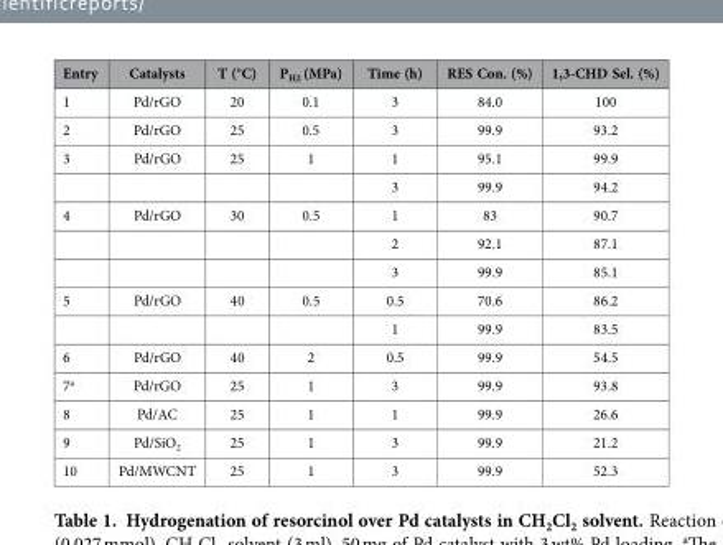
<table><thead><tr><td>Entry</td><td>Catalysts</td><td>T (°C)</td><td>P<sub>H2</sub> (MPa)</td><td>Time (h)</td><td>RES Con. (%)</td><td>1,3-CHD Sel. (%)</td></tr></thead><tbody><tr><td>1</td><td>Pd/rGO</td><td>20</td><td>0.1</td><td>3</td><td>84.0</td><td>100</td></tr><tr><td>2</td><td>Pd/rGO</td><td>25</td><td>0.5</td><td>3</td><td>99.9</td><td>93.2</td></tr><tr><td rowspan="2">3</td><td>Pd/rGO</td><td>25</td><td>1</td><td>1</td><td>95.1</td><td>99.9</td></tr><tr><td></td><td></td><td></td><td>3</td><td>99.9</td><td>94.2</td></tr><tr><td rowspan="3">4</td><td>Pd/rGO</td><td>30</td><td>0.5</td><td>1</td><td>83</td><td>90.7</td></tr><tr><td></td><td></td><td></td><td>2</td><td>92.1</td><td>87.1</td></tr><tr><td></td><td></td><td></td><td>3</td><td>99.9</td><td>85.1</td></tr><tr><td rowspan="2">5</td><td>Pd/rGO</td><td>40</td><td>0.5</td><td>0.5</td><td>70.6</td><td>86.2</td></tr><tr><td></td><td></td><td></td><td>1</td><td>99.9</td><td>83.5</td></tr><tr><td>6</td><td>Pd/rGO</td><td>40</td><td>2</td><td>0.5</td><td>99.9</td><td>54.5</td></tr><tr><td>7<sup>a</sup></td><td>Pd/rGO</td><td>25</td><td>1</td><td>3</td><td>99.9</td><td>93.8</td></tr><tr><td>8</td><td>Pd/AC</td><td>25</td><td>1</td><td>1</td><td>99.9</td><td>26.6</td></tr><tr><td>9</td><td>Pd/SiO<sub>2</sub></td><td>25</td><td>1</td><td>3</td><td>99.9</td><td>21.2</td></tr><tr><td>10</td><td>Pd/MWCNT</td><td>25</td><td>1</td><td>3</td><td>99.9</td><td>52.3</td></tr></tbody></table>